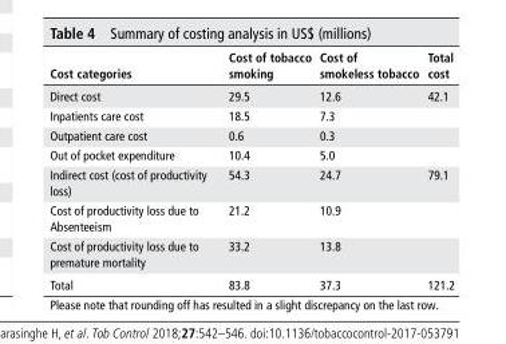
<table><thead><tr><td>Cost categories</td><td>Cost of tobacco smoking</td><td>Cost of smokeless tobacco</td><td>Total cost</td></tr></thead><tbody><tr><td>Direct cost</td><td>29.5</td><td>12.6</td><td>42.1</td></tr><tr><td>Inpatients care cost</td><td>18.5</td><td>7.3</td><td></td></tr><tr><td>Outpatient care cost</td><td>0.6</td><td>0.3</td><td></td></tr><tr><td>Out of pocket expenditure</td><td>10.4</td><td>5.0</td><td></td></tr><tr><td>Indirect cost (cost of productivity loss)</td><td>54.3</td><td>24.7</td><td>79.1</td></tr><tr><td>Cost of productivity loss due to Absenteeism</td><td>21.2</td><td>10.9</td><td></td></tr><tr><td>Cost of productivity loss due to premature mortality</td><td>33.2</td><td>13.8</td><td></td></tr><tr><td>Total</td><td>83.8</td><td>37.3</td><td>121.2</td></tr></tbody></table>